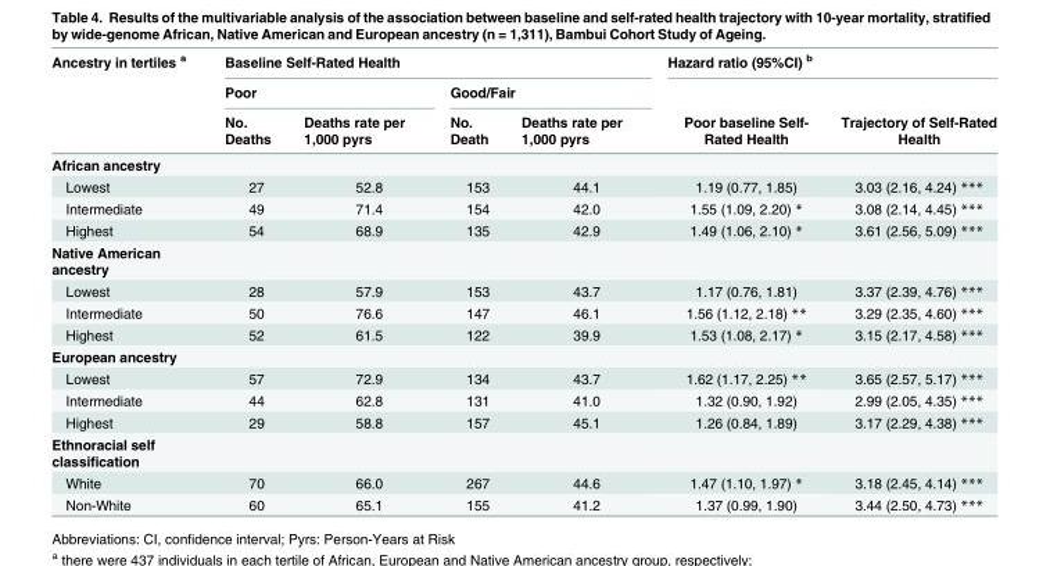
<table><thead><tr><td rowspan="3">Ancestry in tertiles <sup>a</sup></td><td colspan="4">Baseline Self-Rated Health</td><td colspan="2">Hazard ratio (95%CI) <sup>b</sup></td></tr><tr><td colspan="2">Poor</td><td colspan="2">Good/Fair</td><td rowspan="2">Poor baseline Self- Rated Health</td><td rowspan="2">Trajectory of Self-Rated Health</td></tr><tr><td>No. Deaths</td><td>Deaths rate per 1,000 pyrs</td><td>No. Death</td><td>Deaths rate per 1,000 pyrs</td></tr></thead><tbody><tr><td colspan="7">African ancestry</td></tr><tr><td>Lowest</td><td>27</td><td>52.8</td><td>153</td><td>44.1</td><td>1.19 (0.77, 1.85)</td><td>3.03 (2.16, 4.24) ***</td></tr><tr><td>Intermediate</td><td>49</td><td>71.4</td><td>154</td><td>42.0</td><td>1.55 (1.09, 2.20) *</td><td>3.08 (2.14, 4.45) ***</td></tr><tr><td>Highest</td><td>54</td><td>68.9</td><td>135</td><td>42.9</td><td>1.49 (1.06, 2.10) *</td><td>3.61 (2.56, 5.09) ***</td></tr><tr><td colspan="7">Native American ancestry</td></tr><tr><td>Lowest</td><td>28</td><td>57.9</td><td>153</td><td>43.7</td><td>1.17 (0.76, 1.81)</td><td>3.37 (2.39, 4.76) ***</td></tr><tr><td>Intermediate</td><td>50</td><td>76.6</td><td>147</td><td>46.1</td><td>1.56 (1.12, 2.18) **</td><td>3.29 (2.35, 4.60) ***</td></tr><tr><td>Highest</td><td>52</td><td>61.5</td><td>122</td><td>39.9</td><td>1.53 (1.08, 2.17) *</td><td>3.15 (2.17, 4.58) ***</td></tr><tr><td colspan="7">European ancestry</td></tr><tr><td>Lowest</td><td>57</td><td>72.9</td><td>134</td><td>43.7</td><td>1.62 (1.17, 2.25) **</td><td>3.65 (2.57, 5.17) ***</td></tr><tr><td>Intermediate</td><td>44</td><td>62.8</td><td>131</td><td>41.0</td><td>1.32 (0.90, 1.92)</td><td>2.99 (2.05, 4.35) ***</td></tr><tr><td>Highest</td><td>29</td><td>58.8</td><td>157</td><td>45.1</td><td>1.26 (0.84, 1.89)</td><td>3.17 (2.29, 4.38) ***</td></tr><tr><td colspan="7">Ethnoracial self classification</td></tr><tr><td>White</td><td>70</td><td>66.0</td><td>267</td><td>44.6</td><td>1.47 (1.10, 1.97) *</td><td>3.18 (2.45, 4.14) ***</td></tr><tr><td>Non-White</td><td>60</td><td>65.1</td><td>155</td><td>41.2</td><td>1.37 (0.99, 1.90)</td><td>3.44 (2.50, 4.73) ***</td></tr></tbody></table>